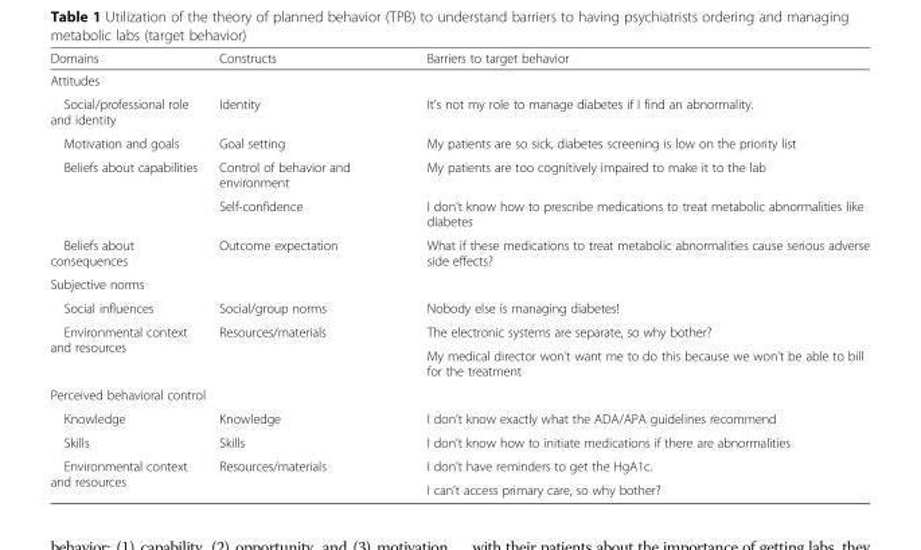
<table><thead><tr><td>Domains</td><td>Constructs</td><td>Barriers to target behavior</td></tr></thead><tbody><tr><td colspan="3">Attitudes</td></tr><tr><td>Social/professional role and identity</td><td>Identity</td><td>It’s not my role to manage diabetes if I find an abnormality.</td></tr><tr><td>Motivation and goals</td><td>Goal setting</td><td>My patients are so sick, diabetes screening is low on the priority list</td></tr><tr><td rowspan="2">Beliefs about capabilities</td><td>Control of behavior and environment</td><td>My patients are too cognitively impaired to make it to the lab</td></tr><tr><td>Self-confidence</td><td>I don’t know how to prescribe medications to treat metabolic abnormalities like diabetes</td></tr><tr><td>Beliefs about consequences</td><td>Outcome expectation</td><td>What if these medications to treat metabolic abnormalities cause serious adverse side effects?</td></tr><tr><td colspan="3">Subjective norms</td></tr><tr><td>Social influences</td><td>Social/group norms</td><td>Nobody else is managing diabetes!</td></tr><tr><td rowspan="2">Environmental context and resources</td><td rowspan="2">Resources/materials</td><td>The electronic systems are separate, so why bother?</td></tr><tr><td>My medical director won’t want me to do this because we won’t be able to bill for the treatment</td></tr><tr><td colspan="3">Perceived behavioral control</td></tr><tr><td>Knowledge</td><td>Knowledge</td><td>I don’t know exactly what the ADA/APA guidelines recommend</td></tr><tr><td>Skills</td><td>Skills</td><td>I don’t know how to initiate medications if there are abnormalities</td></tr><tr><td rowspan="2">Environmental context and resources</td><td rowspan="2">Resources/materials</td><td>I don’t have reminders to get the HgA1c.</td></tr><tr><td>I can’t access primary care, so why bother?</td></tr></tbody></table>